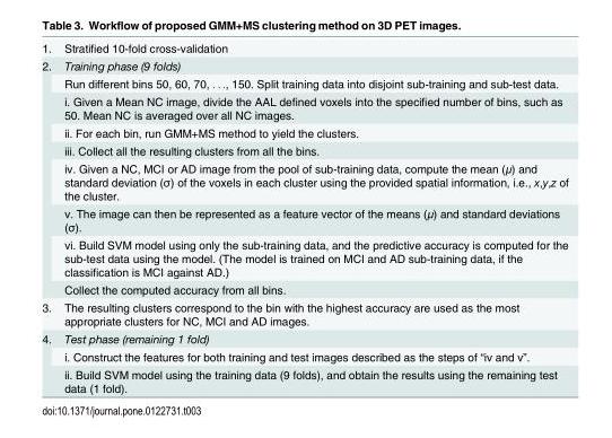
<table><tbody><tr><td>1.</td><td>Stratified 10-fold cross-validation</td></tr><tr><td rowspan="9">2.</td><td>Training phase (9 folds)</td></tr><tr><td>Run different bins 50, 60, 70, . . ., 150. Split training data into disjoint sub-training and sub-test data.</td></tr><tr><td>i. Given a Mean NC image, divide the AAL defined voxels into the specified number of bins, such as 50. Mean NC is averaged over all NC images.</td></tr><tr><td>ii. For each bin, run GMM+MS method to yield the clusters.</td></tr><tr><td>iii. Collect all the resulting clusters from all the bins.</td></tr><tr><td>iv. Given a NC, MCI or AD image from the pool of sub-training data, compute the mean (μ) and standard deviation (σ) of the voxels in each cluster using the provided spatial information, i.e., x,y,z of the cluster.</td></tr><tr><td>v. The image can then be represented as a feature vector of the means (μ) and standard deviations (σ).</td></tr><tr><td>vi. Build SVM model using only the sub-training data, and the predictive accuracy is computed for the sub-test data using the model. (The model is trained on MCI and AD sub-training data, if the classification is MCI against AD.)</td></tr><tr><td>Collect the computed accuracy from all bins.</td></tr><tr><td>3.</td><td>The resulting clusters correspond to the bin with the highest accuracy are used as the most appropriate clusters for NC, MCI and AD images.</td></tr><tr><td rowspan="3">4.</td><td>Test phase (remaining 1 fold)</td></tr><tr><td>i. Construct the features for both training and test images described as the steps of “iv and v”.</td></tr><tr><td>ii. Build SVM model using the training data (9 folds), and obtain the results using the remaining test data (1 fold).</td></tr></tbody></table>